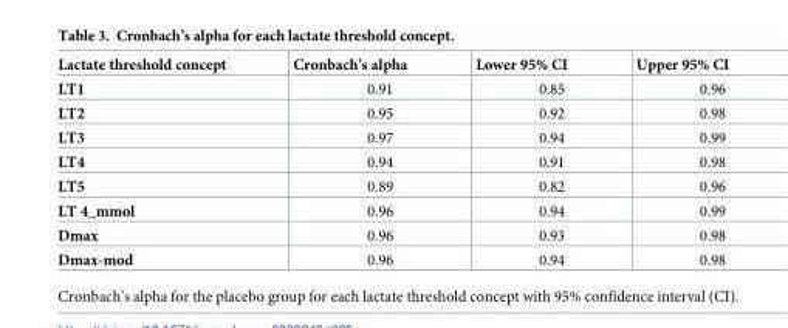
<table><thead><tr><td>Lactate threshold concept</td><td>Cronbach’s alpha</td><td>Lower 95% CI</td><td>Upper 95% CI</td></tr></thead><tbody><tr><td>LT1</td><td>0.91</td><td>0.85</td><td>0.96</td></tr><tr><td>LT2</td><td>0.95</td><td>0.92</td><td>0.98</td></tr><tr><td>LT3</td><td>0.97</td><td>0.94</td><td>0.99</td></tr><tr><td>LT4</td><td>0.94</td><td>0.91</td><td>0.98</td></tr><tr><td>LT5</td><td>0.89</td><td>0.82</td><td>0.96</td></tr><tr><td>LT 4_mmol</td><td>0.96</td><td>0.94</td><td>0.99</td></tr><tr><td>Dmax</td><td>0.96</td><td>0.93</td><td>0.98</td></tr><tr><td>Dmax-mod</td><td>0.96</td><td>0.94</td><td>0.98</td></tr></tbody></table>